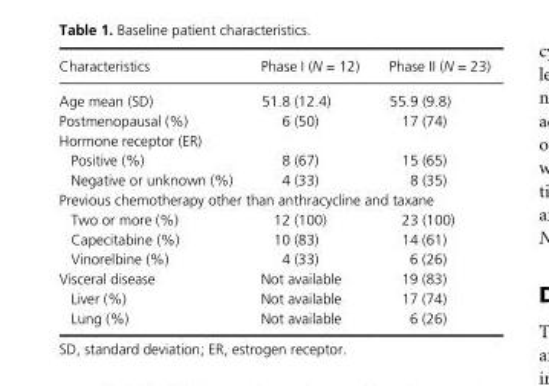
<table><thead><tr><td>Characteristics</td><td>Phase I (N = 12)</td><td>Phase II (N = 23)</td></tr></thead><tbody><tr><td>Age mean (SD)</td><td>51.8 (12.4)</td><td>55.9 (9.8)</td></tr><tr><td>Postmenopausal (%)</td><td>6 (50)</td><td>17 (74)</td></tr><tr><td colspan="3">Hormone receptor (ER)</td></tr><tr><td>Positive (%)</td><td>8 (67)</td><td>15 (65)</td></tr><tr><td>Negative or unknown (%)</td><td>4 (33)</td><td>8 (35)</td></tr><tr><td colspan="3">Previous chemotherapy other than anthracycline and taxane</td></tr><tr><td>Two or more (%)</td><td>12 (100)</td><td>23 (100)</td></tr><tr><td>Capecitabine (%)</td><td>10 (83)</td><td>14 (61)</td></tr><tr><td>Vinorelbine (%)</td><td>4 (33)</td><td>6 (26)</td></tr><tr><td>Visceral disease</td><td>Not available</td><td>19 (83)</td></tr><tr><td>Liver (%)</td><td>Not available</td><td>17 (74)</td></tr><tr><td>Lung (%)</td><td>Not available</td><td>6 (26)</td></tr></tbody></table>